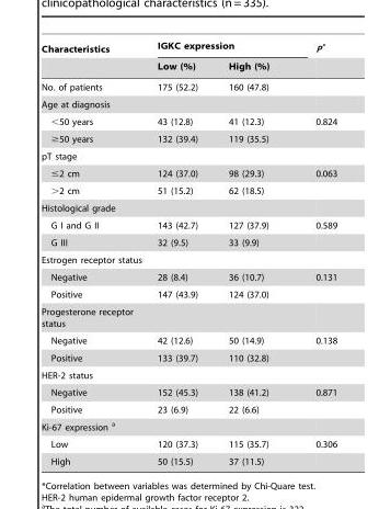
<table><thead><tr><td rowspan="2">Characteristics</td><td colspan="2">IGKC expression</td><td rowspan="2">P*</td></tr><tr><td>Low (%)</td><td>High (%)</td></tr></thead><tbody><tr><td>No. of patients</td><td>175 (52.2)</td><td colspan="2">160 (47.8)</td></tr><tr><td colspan="4">Age at diagnosis</td></tr><tr><td>&lt;50 years</td><td>43 (12.8)</td><td>41 (12.3)</td><td>0.824</td></tr><tr><td>≥50 years</td><td>132 (39.4)</td><td colspan="2">119 (35.5)</td></tr><tr><td colspan="4">pT stage</td></tr><tr><td>≤2 cm</td><td>124 (37.0)</td><td>98 (29.3)</td><td>0.063</td></tr><tr><td>&gt;2 cm</td><td>51 (15.2)</td><td>62 (18.5)</td><td></td></tr><tr><td colspan="4">Histological grade</td></tr><tr><td>G I and G II</td><td>143 (42.7)</td><td>127 (37.9)</td><td>0.589</td></tr><tr><td>G III</td><td>32 (9.5)</td><td>33 (9.9)</td><td></td></tr><tr><td colspan="4">Estrogen receptor status</td></tr><tr><td>Negative</td><td>28 (8.4)</td><td>36 (10.7)</td><td>0.131</td></tr><tr><td>Positive</td><td>147 (43.9)</td><td colspan="2">124 (37.0)</td></tr><tr><td colspan="4">Progesterone receptor status</td></tr><tr><td>Negative</td><td>42 (12.6)</td><td>50 (14.9)</td><td>0.138</td></tr><tr><td>Positive</td><td>133 (39.7)</td><td colspan="2">110 (32.8)</td></tr><tr><td colspan="4">HER-2 status</td></tr><tr><td>Negative</td><td>152 (45.3)</td><td>138 (41.2)</td><td>0.871</td></tr><tr><td>Positive</td><td>23 (6.9)</td><td colspan="2">22 (6.6)</td></tr><tr><td colspan="4">Ki-67 expression a</td></tr><tr><td>Low</td><td>120 (37.3)</td><td>115 (35.7)</td><td>0.306</td></tr><tr><td>High</td><td>50 (15.5)</td><td>37 (11.5)</td><td></td></tr></tbody></table>